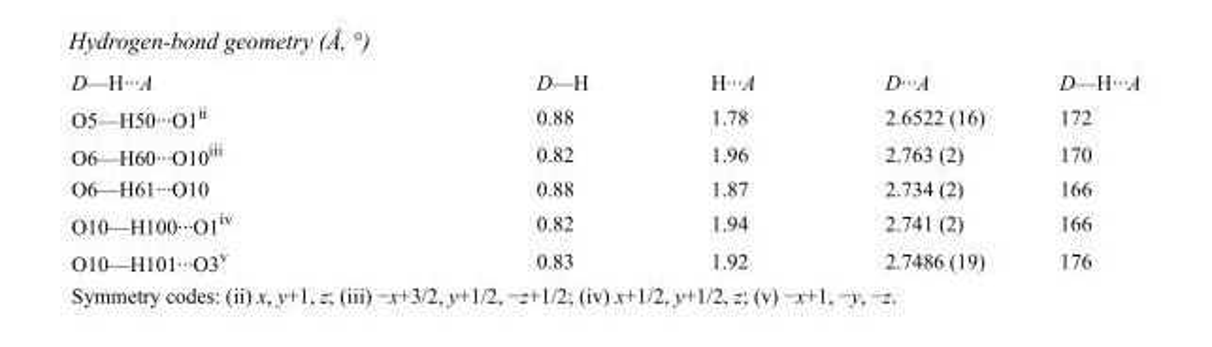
<table><tbody><tr><td>D—H···A</td><td>D—H</td><td>H···A</td><td>D···A</td><td>D—H···A</td></tr><tr><td>O5—H50···O1<sup>ii</sup></td><td>0.88</td><td>1.78</td><td>2.6522 (16)</td><td>172</td></tr><tr><td>O6—H60···O10<sup>iii</sup></td><td>0.82</td><td>1.96</td><td>2.763 (2)</td><td>170</td></tr><tr><td>O6—H61···O10</td><td>0.88</td><td>1.87</td><td>2.734 (2)</td><td>166</td></tr><tr><td>O10—H100···O1<sup>iv</sup></td><td>0.82</td><td>1.94</td><td>2.741 (2)</td><td>166</td></tr><tr><td>O10—H101···O3<sup>v</sup></td><td>0.83</td><td>1.92</td><td>2.7486 (19)</td><td>176</td></tr></tbody></table>